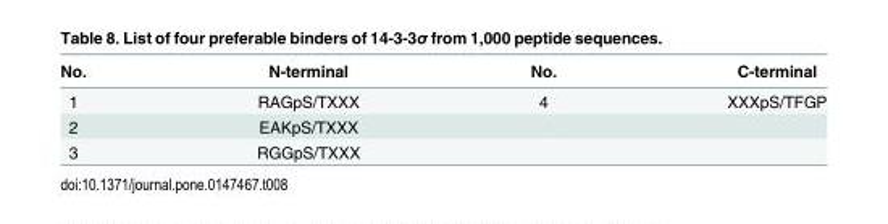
<table><thead><tr><td>No.</td><td>N-terminal</td><td>No.</td><td>C-terminal</td></tr></thead><tbody><tr><td>1</td><td>RAGpS/TXXX</td><td>4</td><td>XXXpS/TFGP</td></tr><tr><td>2</td><td>EAKpS/TXXX</td><td></td><td></td></tr><tr><td>3</td><td>RGGpS/TXXX</td><td></td><td></td></tr></tbody></table>